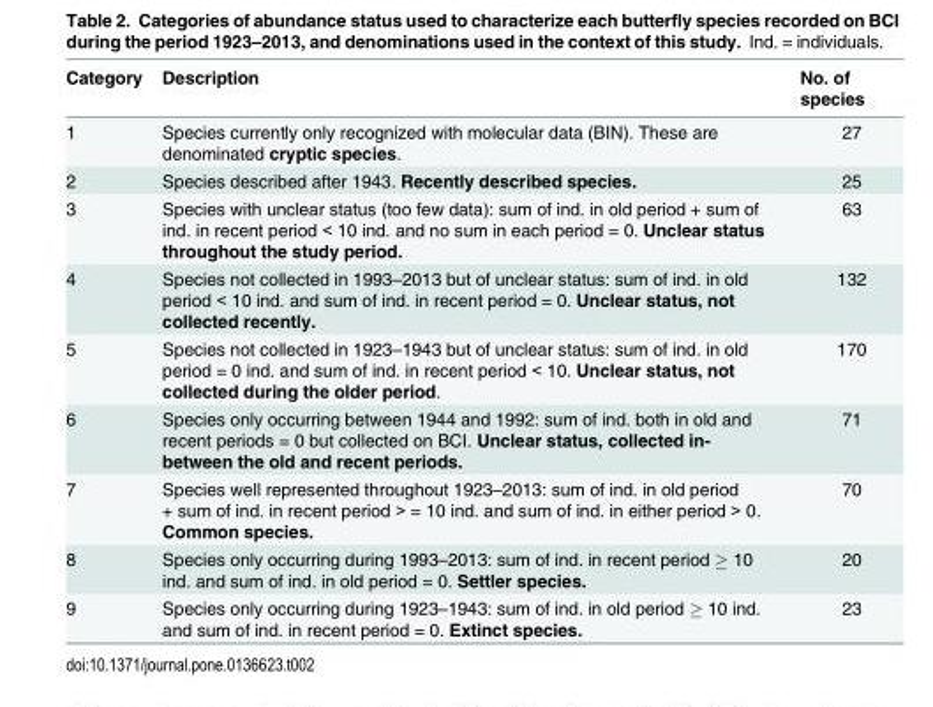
<table><thead><tr><td>Category</td><td>Description</td><td>No. of species</td></tr></thead><tbody><tr><td>1</td><td>Species currently only recognized with molecular data (BIN). These are denominated cryptic species.</td><td>27</td></tr><tr><td>2</td><td>Species described after 1943. Recently described species.</td><td>25</td></tr><tr><td>3</td><td>Species with unclear status (too few data): sum of ind. in old period + sum of ind. in recent period &lt; 10 ind. and no sum in each period = 0. Unclear status throughout the study period.</td><td>63</td></tr><tr><td>4</td><td>Species not collected in 1993–2013 but of unclear status: sum of ind. in old period &lt; 10 ind. and sum of ind. in recent period = 0. Unclear status, not collected recently.</td><td>132</td></tr><tr><td>5</td><td>Species not collected in 1923–1943 but of unclear status: sum of ind. in old period = 0 ind. and sum of ind. in recent period &lt; 10. Unclear status, not collected during the older period.</td><td>170</td></tr><tr><td>6</td><td>Species only occurring between 1944 and 1992: sum of ind. both in old and recent periods = 0 but collected on BCI. Unclear status, collected in- between the old and recent periods.</td><td>71</td></tr><tr><td>7</td><td>Species well represented throughout 1923–2013: sum of ind. in old period + sum of ind. in recent period &gt; = 10 ind. and sum of ind. in either period &gt; 0. Common species.</td><td>70</td></tr><tr><td>8</td><td>Species only occurring during 1993–2013: sum of ind. in recent period ≥ 10 ind. and sum of ind. in old period = 0. Settler species.</td><td>20</td></tr><tr><td>9</td><td>Species only occurring during 1923–1943: sum of ind. in old period ≥ 10 ind. and sum of ind. in recent period = 0. Extinct species.</td><td>23</td></tr></tbody></table>